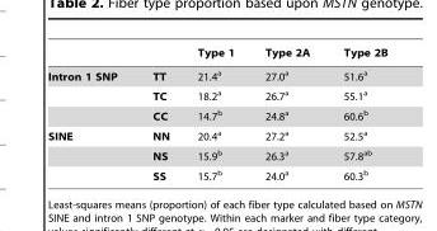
<table><thead><tr><td></td><td></td><td>Type 1</td><td>Type 2A</td><td>Type 2B</td></tr></thead><tbody><tr><td rowspan="3">Intron 1 SNP</td><td>TT</td><td>21.4<sup>a</sup></td><td>27.0<sup>a</sup></td><td>51.6<sup>a</sup></td></tr><tr><td>TC</td><td>18.2<sup>a</sup></td><td>26.7<sup>a</sup></td><td>55.1<sup>a</sup></td></tr><tr><td>CC</td><td>14.7<sup>b</sup></td><td>24.8<sup>a</sup></td><td>60.6<sup>b</sup></td></tr><tr><td rowspan="3">SINE</td><td>NN</td><td>20.4<sup>a</sup></td><td>27.2<sup>a</sup></td><td>52.5<sup>a</sup></td></tr><tr><td>NS</td><td>15.9<sup>b</sup></td><td>26.3<sup>a</sup></td><td>57.8<sup>ab</sup></td></tr><tr><td>SS</td><td>15.7<sup>b</sup></td><td>24.0<sup>a</sup></td><td>60.3<sup>b</sup></td></tr></tbody></table>